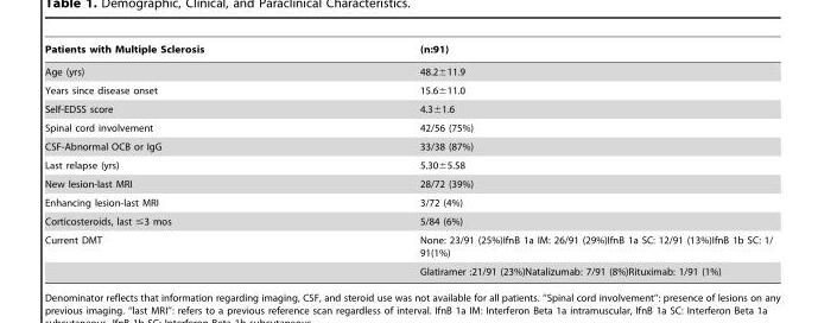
<table><thead><tr><td>Patients with Multiple Sclerosis</td><td>(n:91)</td></tr></thead><tbody><tr><td>Age (yrs)</td><td>48.2±11.9</td></tr><tr><td>Years since disease onset</td><td>15.6±11.0</td></tr><tr><td>Self-EDSS score</td><td>4.3±1.6</td></tr><tr><td>Spinal cord involvement</td><td>42/56 (75%)</td></tr><tr><td>CSF-Abnormal OCB or IgG</td><td>33/38 (87%)</td></tr><tr><td>Last relapse (yrs)</td><td>5.30±5.58</td></tr><tr><td>New lesion-last MRI</td><td>28/72 (39%)</td></tr><tr><td>Enhancing lesion-last MRI</td><td>3/72 (4%)</td></tr><tr><td>Corticosteroids, last ≤3 mos</td><td>5/84 (6%)</td></tr><tr><td rowspan="2">Current DMT</td><td>None: 23/91 (25%)IfnB 1a IM: 26/91 (29%)IfnB 1a SC: 12/91 (13%)IfnB 1b SC: 1/ 91(1%)</td></tr><tr><td>Glatiramer :21/91 (23%)Natalizumab: 7/91 (8%)Rituximab: 1/91 (1%)</td></tr></tbody></table>